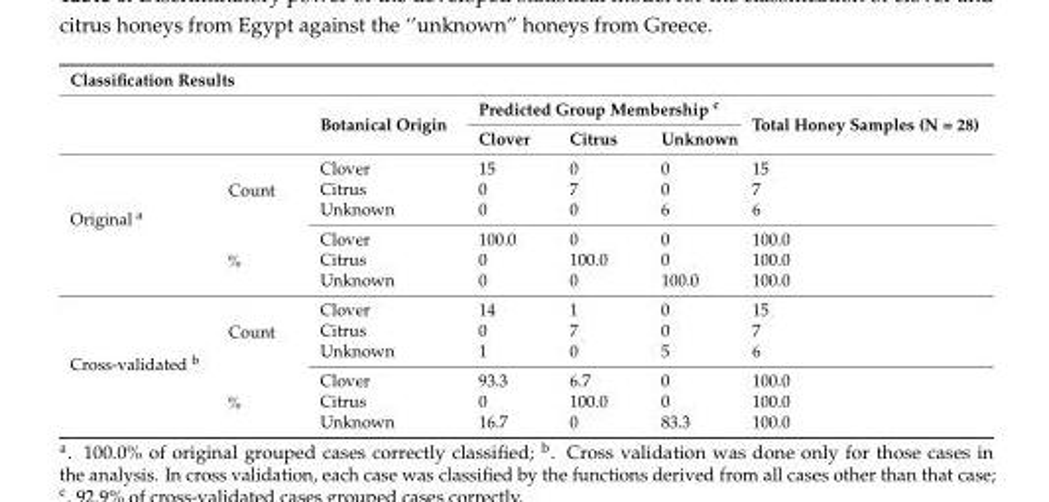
<table><thead><tr><td colspan="7">Classification Results</td></tr><tr><td rowspan="2"></td><td rowspan="2"></td><td rowspan="2">Botanical Origin</td><td colspan="3">Predicted Group Membership <sup>c</sup></td><td rowspan="2">Total Honey Samples (N = 28)</td></tr><tr><td>Clover</td><td>Citrus</td><td>Unknown</td></tr></thead><tbody><tr><td rowspan="6">Original <sup>a</sup></td><td rowspan="3">Count</td><td>Clover</td><td>15</td><td>0</td><td>0</td><td>15</td></tr><tr><td>Citrus</td><td>0</td><td>7</td><td>0</td><td>7</td></tr><tr><td>Unknown</td><td>0</td><td>0</td><td>6</td><td>6</td></tr><tr><td rowspan="3">%</td><td>Clover</td><td>100.0</td><td>0</td><td>0</td><td>100.0</td></tr><tr><td>Citrus</td><td>0</td><td>100.0</td><td>0</td><td>100.0</td></tr><tr><td>Unknown</td><td>0</td><td>0</td><td>100.0</td><td>100.0</td></tr><tr><td rowspan="6">Cross-validated <sup>b</sup></td><td rowspan="3">Count</td><td>Clover</td><td>14</td><td>1</td><td>0</td><td>15</td></tr><tr><td>Citrus</td><td>0</td><td>7</td><td>0</td><td>7</td></tr><tr><td>Unknown</td><td>1</td><td>0</td><td>5</td><td>6</td></tr><tr><td rowspan="3">%</td><td>Clover</td><td>93.3</td><td>6.7</td><td>0</td><td>100.0</td></tr><tr><td>Citrus</td><td>0</td><td>100.0</td><td>0</td><td>100.0</td></tr><tr><td>Unknown</td><td>16.7</td><td>0</td><td>83.3</td><td>100.0</td></tr></tbody></table>